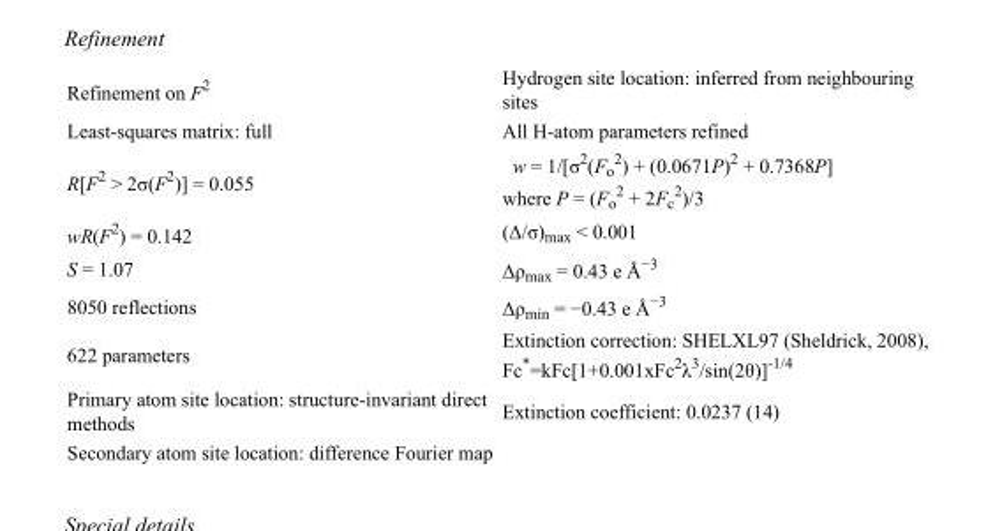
<table><tbody><tr><td>Refinement on F<sup>2</sup></td><td>Hydrogen site location: inferred from neighbouring sites</td></tr><tr><td>Least-squares matrix: full</td><td>All H-atom parameters refined</td></tr><tr><td>R[F<sup>2</sup> &gt; 2σ(F<sup>2</sup>)] = 0.055</td><td>w = 1/[σ<sup>2</sup>(F<sub>o</sub> <sup>2</sup>) + (0.0671P)<sup>2</sup> + 0.7368P] where P = (F<sub>o</sub> <sup>2</sup> + 2F<sub>c</sub> <sup>2</sup>)/3</td></tr><tr><td>wR(F<sup>2</sup>) = 0.142</td><td>(Δ/σ)<sub>max</sub> &lt; 0.001</td></tr><tr><td>S = 1.07</td><td>Δρ<sub>max</sub> = 0.43 e Å<sup>−3</sup></td></tr><tr><td>8050 reflections</td><td>Δρ<sub>min</sub> = −0.43 e Å<sup>−3</sup></td></tr><tr><td>622 parameters</td><td>Extinction correction: SHELXL97 (Sheldrick, 2008), Fc*=kFc[1+0.001xFc<sup>2</sup>λ<sup>3</sup>/sin(2θ)]<sup>-1/4</sup></td></tr><tr><td>Primary atom site location: structure-invariant direct methods</td><td>Extinction coefficient: 0.0237 (14)</td></tr><tr><td>Secondary atom site location: difference Fourier map</td><td></td></tr></tbody></table>